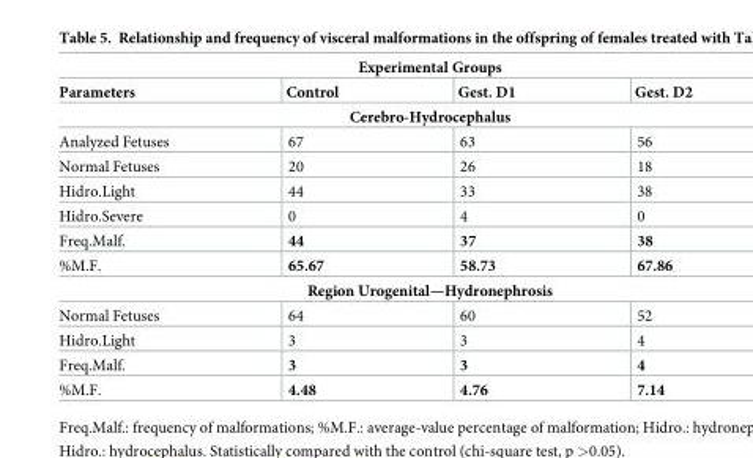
<table><thead><tr><td colspan="4">Experimental Groups</td></tr><tr><td>Parameters</td><td>Control</td><td>Gest. D1</td><td>Gest. D2</td></tr></thead><tbody><tr><td colspan="4">Cerebro-Hydrocephalus</td></tr><tr><td>Analyzed Fetuses</td><td>67</td><td>63</td><td>56</td></tr><tr><td>Normal Fetuses</td><td>20</td><td>26</td><td>18</td></tr><tr><td>Hidro.Light</td><td>44</td><td>33</td><td>38</td></tr><tr><td>Hidro.Severe</td><td>0</td><td>4</td><td>0</td></tr><tr><td>Freq.Malf.</td><td>44</td><td>37</td><td>38</td></tr><tr><td>%M.F.</td><td>65.67</td><td>58.73</td><td>67.86</td></tr><tr><td colspan="4">Region Urogenital—Hydronephrosis</td></tr><tr><td>Normal Fetuses</td><td>64</td><td>60</td><td>52</td></tr><tr><td>Hidro.Light</td><td>3</td><td>3</td><td>4</td></tr><tr><td>Freq.Malf.</td><td>3</td><td>3</td><td>4</td></tr><tr><td>%M.F.</td><td>4.48</td><td>4.76</td><td>7.14</td></tr></tbody></table>